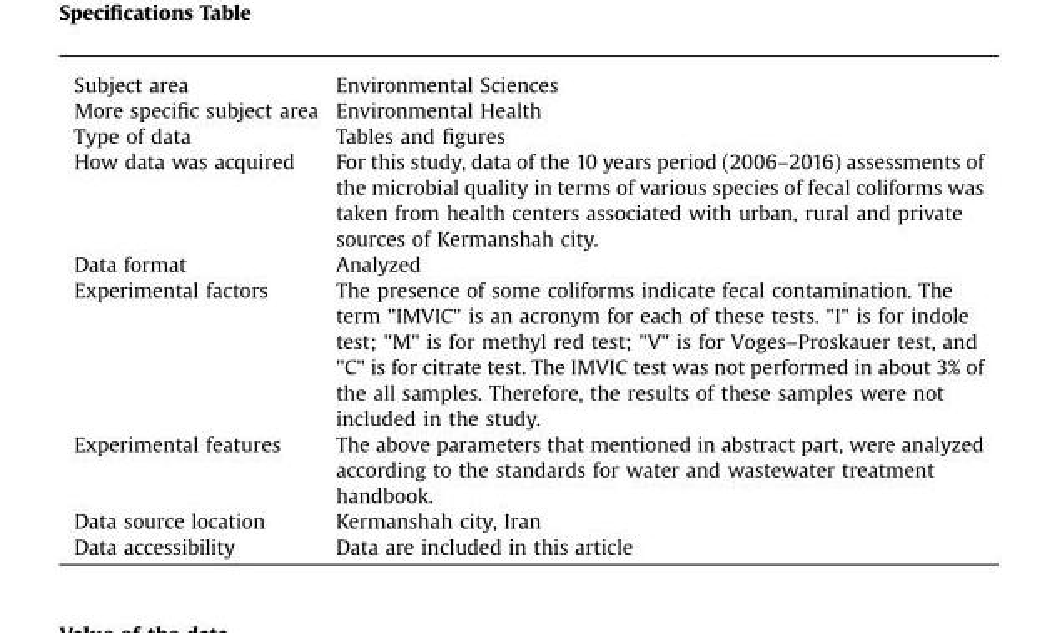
<table><tbody><tr><td>Subject area</td><td>Environmental Sciences</td></tr><tr><td>More specific subject area</td><td>Environmental Health</td></tr><tr><td>Type of data</td><td>Tables and figures</td></tr><tr><td>How data was acquired</td><td>For this study, data of the 10 years period (2006–2016) assessments of the microbial quality in terms of various species of fecal coliforms was taken from health centers associated with urban, rural and private sources of Kermanshah city.</td></tr><tr><td>Data format</td><td>Analyzed</td></tr><tr><td>Experimental factors</td><td>The presence of some coliforms indicate fecal contamination. The term &quot;IMVIC&quot; is an acronym for each of these tests. &quot;I&quot; is for indole test; &quot;M&quot; is for methyl red test; &quot;V&quot; is for Voges–Proskauer test, and &quot;C&quot; is for citrate test. The IMVIC test was not performed in about 3% of the all samples. Therefore, the results of these samples were not included in the study.</td></tr><tr><td>Experimental features</td><td>The above parameters that mentioned in abstract part, were analyzed according to the standards for water and wastewater treatment handbook.</td></tr><tr><td>Data source location</td><td>Kermanshah city, Iran</td></tr><tr><td>Data accessibility</td><td>Data are included in this article</td></tr></tbody></table>